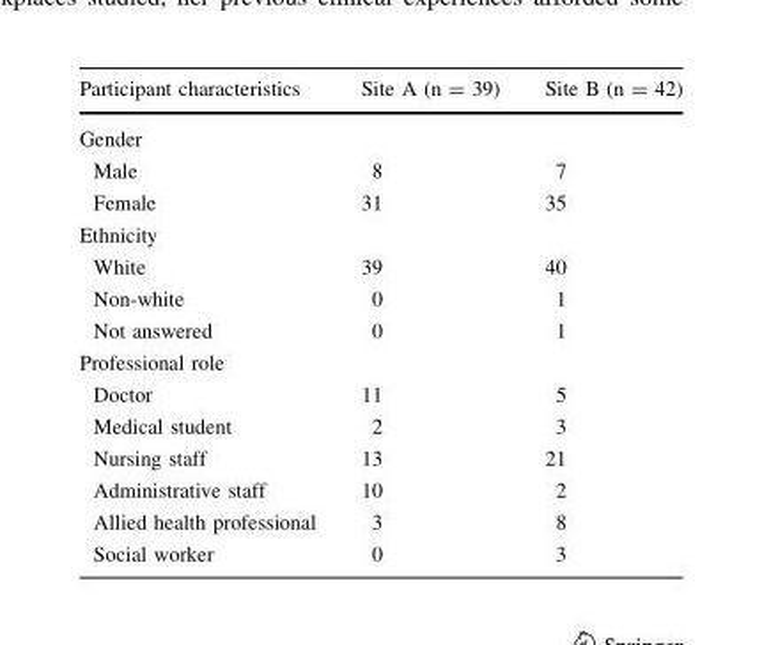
<table><thead><tr><td>Participant characteristics</td><td>Site A (n = 39)</td><td>Site B (n = 42)</td></tr></thead><tbody><tr><td colspan="3">Gender</td></tr><tr><td>Male</td><td>8</td><td>7</td></tr><tr><td>Female</td><td>31</td><td>35</td></tr><tr><td colspan="3">Ethnicity</td></tr><tr><td>White</td><td>39</td><td>40</td></tr><tr><td>Non-white</td><td>0</td><td>1</td></tr><tr><td>Not answered</td><td>0</td><td>1</td></tr><tr><td colspan="3">Professional role</td></tr><tr><td>Doctor</td><td>11</td><td>5</td></tr><tr><td>Medical student</td><td>2</td><td>3</td></tr><tr><td>Nursing staff</td><td>13</td><td>21</td></tr><tr><td>Administrative staff</td><td>10</td><td>2</td></tr><tr><td>Allied health professional</td><td>3</td><td>8</td></tr><tr><td>Social worker</td><td>0</td><td>3</td></tr></tbody></table>